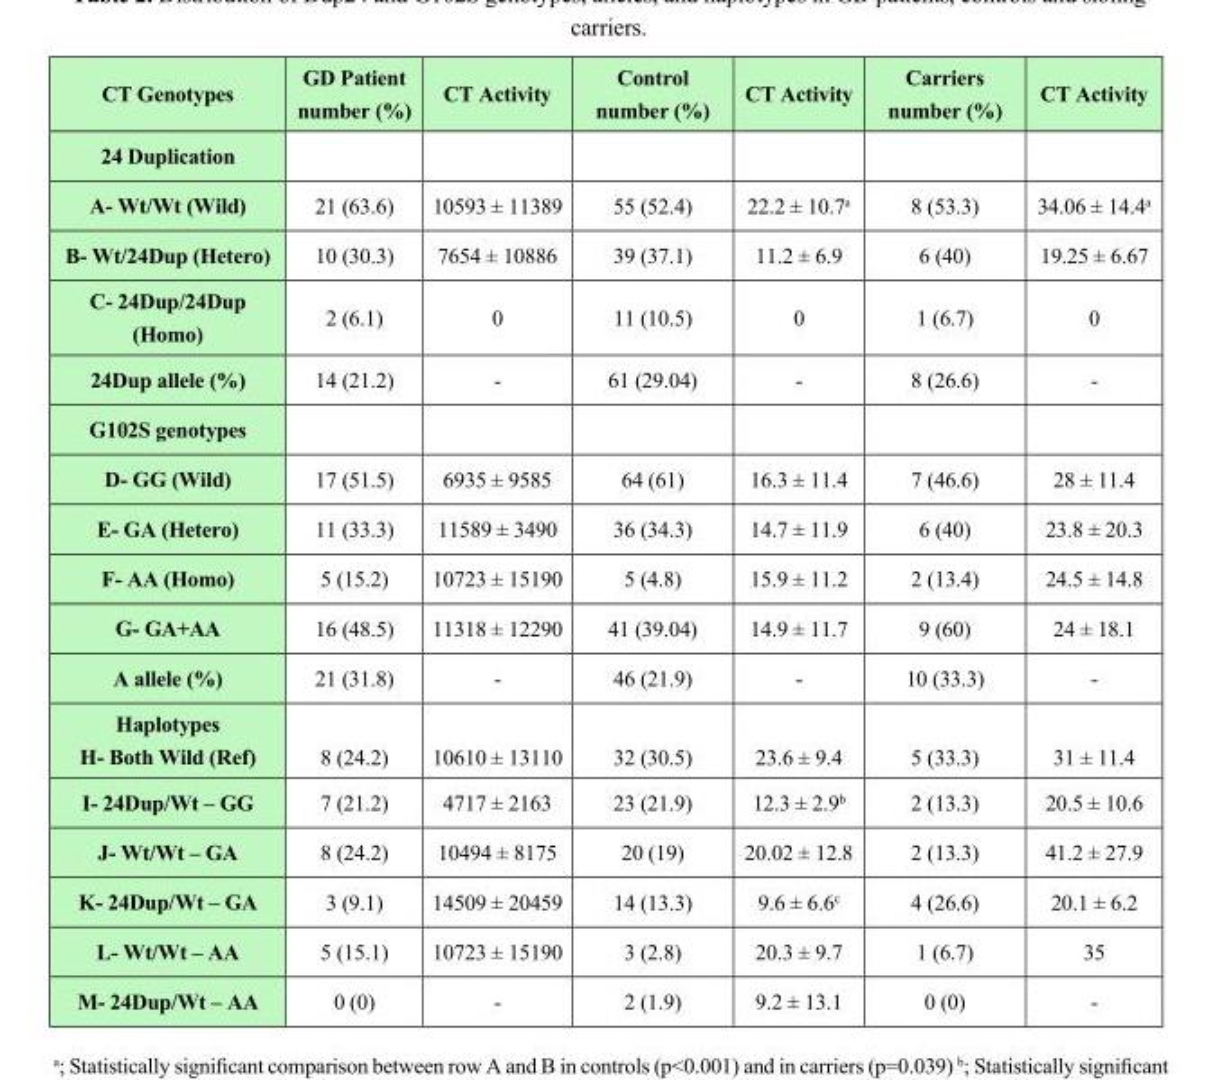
<table><thead><tr><td>CT Genotypes</td><td>GD Patient number (%)</td><td>CT Activity</td><td>Control number (%)</td><td>CT Activity</td><td>Carriers number (%)</td><td>CT Activity</td></tr></thead><tbody><tr><td colspan="7">24 Duplication</td></tr><tr><td>A- Wt/Wt (Wild)</td><td>21 (63.6)</td><td>10593 ± 11389</td><td>55 (52.4)</td><td>22.2 ± 10.7<sup>a</sup></td><td>8 (53.3)</td><td>34.06 ± 14.4<sup>a</sup></td></tr><tr><td>B- Wt/24Dup (Hetero)</td><td>10 (30.3)</td><td>7654 ± 10886</td><td>39 (37.1)</td><td>11.2 ± 6.9</td><td>6 (40)</td><td>19.25 ± 6.67</td></tr><tr><td>C- 24Dup/24Dup (Homo)</td><td>2 (6.1)</td><td>0</td><td>11 (10.5)</td><td>0</td><td>1 (6.7)</td><td>0</td></tr><tr><td>24Dup allele (%)</td><td>14 (21.2)</td><td>-</td><td>61 (29.04)</td><td>-</td><td>8 (26.6)</td><td>-</td></tr><tr><td colspan="7">G102S genotypes</td></tr><tr><td>D- GG (Wild)</td><td>17 (51.5)</td><td>6935 ± 9585</td><td>64 (61)</td><td>16.3 ± 11.4</td><td>7 (46.6)</td><td>28 ± 11.4</td></tr><tr><td>E- GA (Hetero)</td><td>11 (33.3)</td><td>11589 ± 3490</td><td>36 (34.3)</td><td>14.7 ± 11.9</td><td>6 (40)</td><td>23.8 ± 20.3</td></tr><tr><td>F- AA (Homo)</td><td>5 (15.2)</td><td>10723 ± 15190</td><td>5 (4.8)</td><td>15.9 ± 11.2</td><td>2 (13.4)</td><td>24.5 ± 14.8</td></tr><tr><td>G- GA+AA</td><td>16 (48.5)</td><td>11318 ± 12290</td><td>41 (39.04)</td><td>14.9 ± 11.7</td><td>9 (60)</td><td>24 ± 18.1</td></tr><tr><td>A allele (%)</td><td>21 (31.8)</td><td>-</td><td>46 (21.9)</td><td>-</td><td>10 (33.3)</td><td>-</td></tr><tr><td>Haplotypes H- Both Wild (Ref)</td><td>8 (24.2)</td><td>10610 ± 13110</td><td>32 (30.5)</td><td>23.6 ± 9.4</td><td>5 (33.3)</td><td>31 ± 11.4</td></tr><tr><td>I- 24Dup/Wt – GG</td><td>7 (21.2)</td><td>4717 ± 2163</td><td>23 (21.9)</td><td>12.3 ± 2.9<sup>b</sup></td><td>2 (13.3)</td><td>20.5 ± 10.6</td></tr><tr><td>J- Wt/Wt – GA</td><td>8 (24.2)</td><td>10494 ± 8175</td><td>20 (19)</td><td>20.02 ± 12.8</td><td>2 (13.3)</td><td>41.2 ± 27.9</td></tr><tr><td>K- 24Dup/Wt – GA</td><td>3 (9.1)</td><td>14509 ± 20459</td><td>14 (13.3)</td><td>9.6 ± 6.6<sup>c</sup></td><td>4 (26.6)</td><td>20.1 ± 6.2</td></tr><tr><td>L- Wt/Wt – AA</td><td>5 (15.1)</td><td>10723 ± 15190</td><td>3 (2.8)</td><td>20.3 ± 9.7</td><td>1 (6.7)</td><td>35</td></tr><tr><td>M- 24Dup/Wt – AA</td><td>0 (0)</td><td>-</td><td>2 (1.9)</td><td>9.2 ± 13.1</td><td>0 (0)</td><td>-</td></tr></tbody></table>